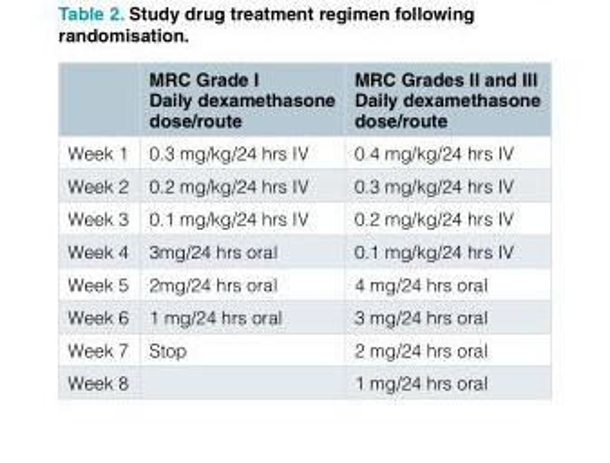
<table><thead><tr><td></td><td>MRC Grade I Daily dexamethasone dose/route</td><td>MRC Grades II and III Daily dexamethasone dose/route</td></tr></thead><tbody><tr><td>Week 1</td><td>0.3 mg/kg/24 hrs IV</td><td>0.4 mg/kg/24 hrs IV</td></tr><tr><td>Week 2</td><td>0.2 mg/kg/24 hrs IV</td><td>0.3 mg/kg/24 hrs IV</td></tr><tr><td>Week 3</td><td>0.1 mg/kg/24 hrs IV</td><td>0.2 mg/kg/24 hrs IV</td></tr><tr><td>Week 4</td><td>3mg/24 hrs oral</td><td>0.1 mg/kg/24 hrs IV</td></tr><tr><td>Week 5</td><td>2mg/24 hrs oral</td><td>4 mg/24 hrs oral</td></tr><tr><td>Week 6</td><td>1 mg/24 hrs oral</td><td>3 mg/24 hrs oral</td></tr><tr><td>Week 7</td><td>Stop</td><td>2 mg/24 hrs oral</td></tr><tr><td>Week 8</td><td></td><td>1 mg/24 hrs oral</td></tr></tbody></table>